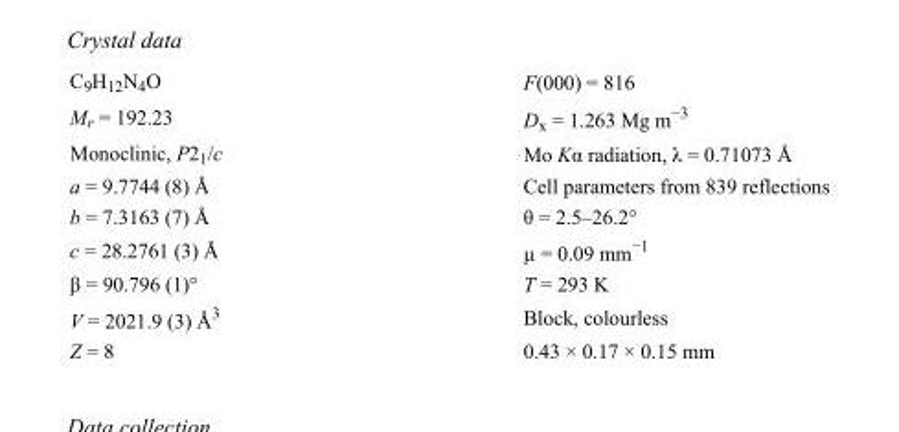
<table><tbody><tr><td>C<sub>9</sub>H<sub>12</sub>N<sub>4</sub>O</td><td>F(000) = 816</td></tr><tr><td>M<sub>r</sub> = 192.23</td><td>D<sub>x</sub> = 1.263 Mg m<sup>−3</sup></td></tr><tr><td>Monoclinic, P2<sub>1</sub>/c</td><td>Mo Kα radiation, λ = 0.71073 Å</td></tr><tr><td>a = 9.7744 (8) Å</td><td>Cell parameters from 839 reflections</td></tr><tr><td>b = 7.3163 (7) Å</td><td>θ = 2.5–26.2°</td></tr><tr><td>c = 28.2761 (3) Å</td><td>µ = 0.09 mm<sup>−1</sup></td></tr><tr><td>β = 90.796 (1)°</td><td>T = 293 K</td></tr><tr><td>V = 2021.9 (3) Å<sup>3</sup></td><td>Block, colourless</td></tr><tr><td>Z = 8</td><td>0.43 × 0.17 × 0.15 mm</td></tr></tbody></table>